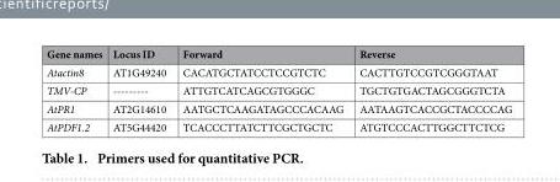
<table><thead><tr><td>Gene names</td><td>Locus ID</td><td>Forward</td><td>Reverse</td></tr></thead><tbody><tr><td>Atactin8</td><td>AT1G49240</td><td>CACATGCTATCCTCCGTCTC</td><td>CACTTGTCCGTCGGGTAAT</td></tr><tr><td>TMV-CP</td><td>---------</td><td>ATTGTCATCAGCGTGGGC</td><td>TGCTGTGACTAGCGGGTCTA</td></tr><tr><td>AtPR1</td><td>AT2G14610</td><td>AATGCTCAAGATAGCCCACAAG</td><td>AATAAGTCACCGCTACCCCAG</td></tr><tr><td>AtPDF1.2</td><td>AT5G44420</td><td>TCACCCTTATCTTCGCTGCTC</td><td>ATGTCCCACTTGGCTTCTCG</td></tr></tbody></table>